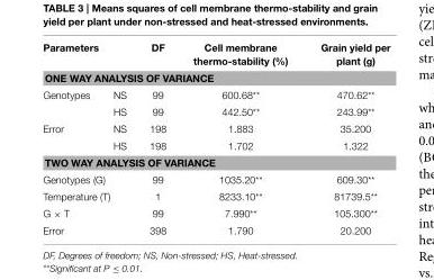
<table><thead><tr><td colspan="2">Parameters</td><td>DF</td><td>Cell membrane thermo-stability (%)</td><td>Grain yield per plant (g)</td></tr><tr><td colspan="5">ONE WAY ANALYSIS OF VARIANCE</td></tr><tr><td>Genotypes</td><td>NS</td><td>99</td><td>600.68**</td><td>470.62**</td></tr></thead><tbody><tr><td></td><td>HS</td><td>99</td><td>442.50**</td><td>243.99**</td></tr><tr><td rowspan="2">Error</td><td>NS</td><td>198</td><td>1.883</td><td>35.200</td></tr><tr><td>HS</td><td>198</td><td>1.702</td><td>1.322</td></tr><tr><td colspan="5">TWO WAY ANALYSIS OF VARIANCE</td></tr><tr><td colspan="2">Genotypes (G)</td><td>99</td><td>1035.20**</td><td>609.30**</td></tr><tr><td colspan="2">Temperature (T)</td><td>1</td><td>8233.10**</td><td>81739.5**</td></tr><tr><td colspan="2">G × T</td><td>99</td><td>7.990**</td><td>105.300**</td></tr><tr><td colspan="2">Error</td><td>398</td><td>1.790</td><td>20.200</td></tr></tbody></table>